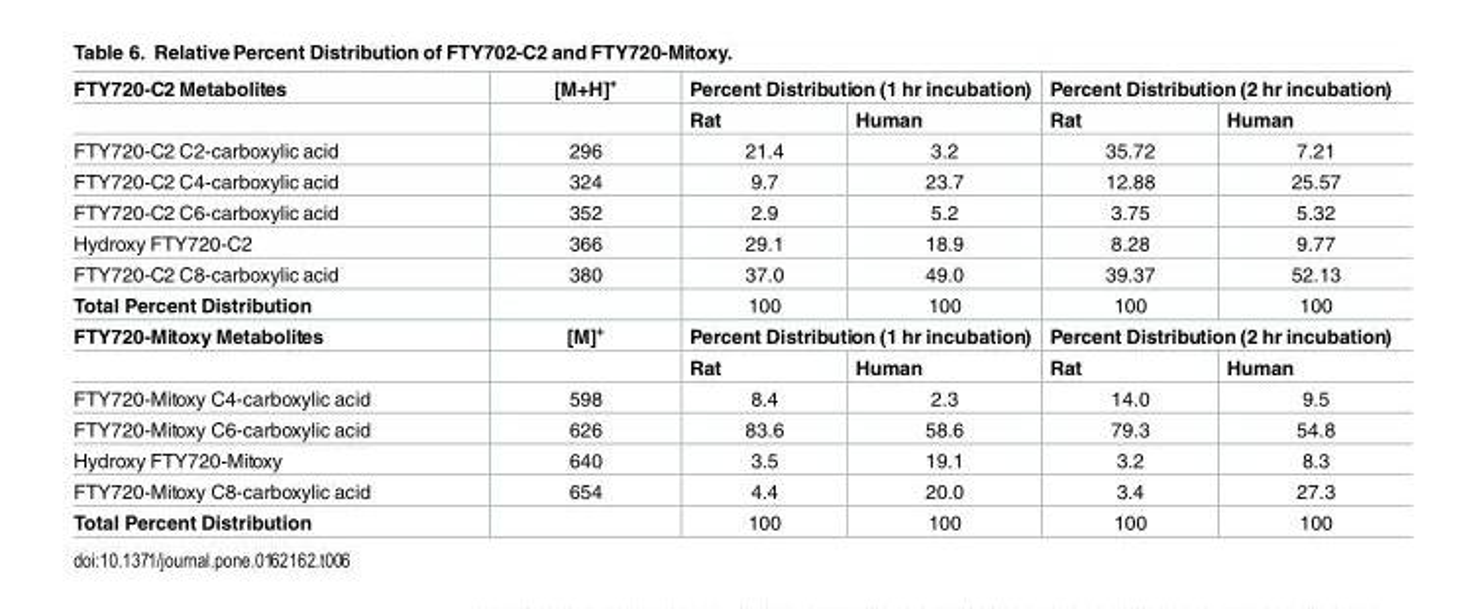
<table><tbody><tr><td rowspan="2">FTY720-C2 Metabolites</td><td>[M+H]<sup>+</sup></td><td colspan="2">Percent Distribution (1 hr incubation)</td><td colspan="2">Percent Distribution (2 hr incubation)</td></tr><tr><td></td><td>Rat</td><td>Human</td><td>Rat</td><td>Human</td></tr><tr><td>FTY720-C2 C2-carboxylic acid</td><td>296</td><td>21.4</td><td>3.2</td><td>35.72</td><td>7.21</td></tr><tr><td>FTY720-C2 C4-carboxylic acid</td><td>324</td><td>9.7</td><td>23.7</td><td>12.88</td><td>25.57</td></tr><tr><td>FTY720-C2 C6-carboxylic acid</td><td>352</td><td>2.9</td><td>5.2</td><td>3.75</td><td>5.32</td></tr><tr><td>Hydroxy FTY720-C2</td><td>366</td><td>29.1</td><td>18.9</td><td>8.28</td><td>9.77</td></tr><tr><td>FTY720-C2 C8-carboxylic acid</td><td>380</td><td>37.0</td><td>49.0</td><td>39.37</td><td>52.13</td></tr><tr><td>Total Percent Distribution</td><td></td><td>100</td><td>100</td><td>100</td><td>100</td></tr><tr><td rowspan="2">FTY720-Mitoxy Metabolites</td><td>[M]<sup>+</sup></td><td colspan="2">Percent Distribution (1 hr incubation)</td><td colspan="2">Percent Distribution (2 hr incubation)</td></tr><tr><td></td><td>Rat</td><td>Human</td><td>Rat</td><td>Human</td></tr><tr><td>FTY720-Mitoxy C4-carboxylic acid</td><td>598</td><td>8.4</td><td>2.3</td><td>14.0</td><td>9.5</td></tr><tr><td>FTY720-Mitoxy C6-carboxylic acid</td><td>626</td><td>83.6</td><td>58.6</td><td>79.3</td><td>54.8</td></tr><tr><td>Hydroxy FTY720-Mitoxy</td><td>640</td><td>3.5</td><td>19.1</td><td>3.2</td><td>8.3</td></tr><tr><td>FTY720-Mitoxy C8-carboxylic acid</td><td>654</td><td>4.4</td><td>20.0</td><td>3.4</td><td>27.3</td></tr><tr><td>Total Percent Distribution</td><td></td><td>100</td><td>100</td><td>100</td><td>100</td></tr></tbody></table>